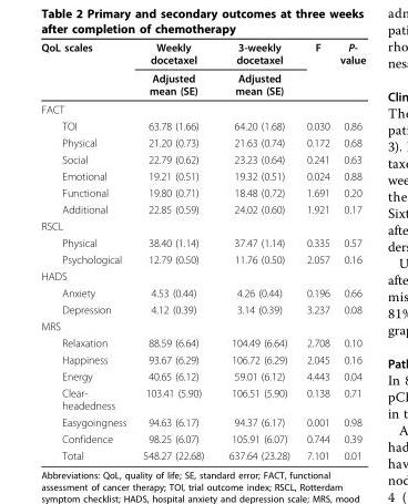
<table><thead><tr><td rowspan="2">QoL scales</td><td rowspan="2">Weekly docetaxel Adjusted mean (SE)</td><td rowspan="2">3-weekly docetaxel Adjusted mean (SE)</td><td rowspan="2">F</td><td rowspan="2">P- value</td></tr><tr></tr></thead><tbody><tr><td colspan="5">FACT</td></tr><tr><td>TOI</td><td>63.78 (1.66)</td><td>64.20 (1.68)</td><td>0.030</td><td>0.86</td></tr><tr><td>Physical</td><td>21.20 (0.73)</td><td>21.63 (0.74)</td><td>0.172</td><td>0.68</td></tr><tr><td>Social</td><td>22.79 (0.62)</td><td>23.23 (0.64)</td><td>0.241</td><td>0.63</td></tr><tr><td>Emotional</td><td>19.21 (0.51)</td><td>19.32 (0.51)</td><td>0.024</td><td>0.88</td></tr><tr><td>Functional</td><td>19.80 (0.71)</td><td>18.48 (0.72)</td><td>1.691</td><td>0.20</td></tr><tr><td>Additional</td><td>22.85 (0.59)</td><td>24.02 (0.60)</td><td>1.921</td><td>0.17</td></tr><tr><td colspan="5">RSCL</td></tr><tr><td>Physical</td><td>38.40 (1.14)</td><td>37.47 (1.14)</td><td>0.335</td><td>0.57</td></tr><tr><td>Psychological</td><td>12.79 (0.50)</td><td>11.76 (0.50)</td><td>2.057</td><td>0.16</td></tr><tr><td colspan="5">HADS</td></tr><tr><td>Anxiety</td><td>4.53 (0.44)</td><td>4.26 (0.44)</td><td>0.196</td><td>0.66</td></tr><tr><td>Depression</td><td>4.12 (0.39)</td><td>3.14 (0.39)</td><td>3.237</td><td>0.08</td></tr><tr><td colspan="5">MRS</td></tr><tr><td>Relaxation</td><td>88.59 (6.64)</td><td>104.49 (6.64)</td><td>2.708</td><td>0.10</td></tr><tr><td>Happiness</td><td>93.67 (6.29)</td><td>106.72 (6.29)</td><td>2.045</td><td>0.16</td></tr><tr><td>Energy</td><td>40.65 (6.12)</td><td>59.01 (6.12)</td><td>4.443</td><td>0.04</td></tr><tr><td>Clear- headedness</td><td>103.41 (5.90)</td><td>106.51 (5.90)</td><td>0.138</td><td>0.71</td></tr><tr><td>Easygoingness</td><td>94.63 (6.17)</td><td>94.37 (6.17)</td><td>0.001</td><td>0.98</td></tr><tr><td>Confidence</td><td>98.25 (6.07)</td><td>105.91 (6.07)</td><td>0.744</td><td>0.39</td></tr><tr><td>Total</td><td>548.27 (22.68)</td><td>637.64 (23.28)</td><td>7.101</td><td>0.01</td></tr></tbody></table>